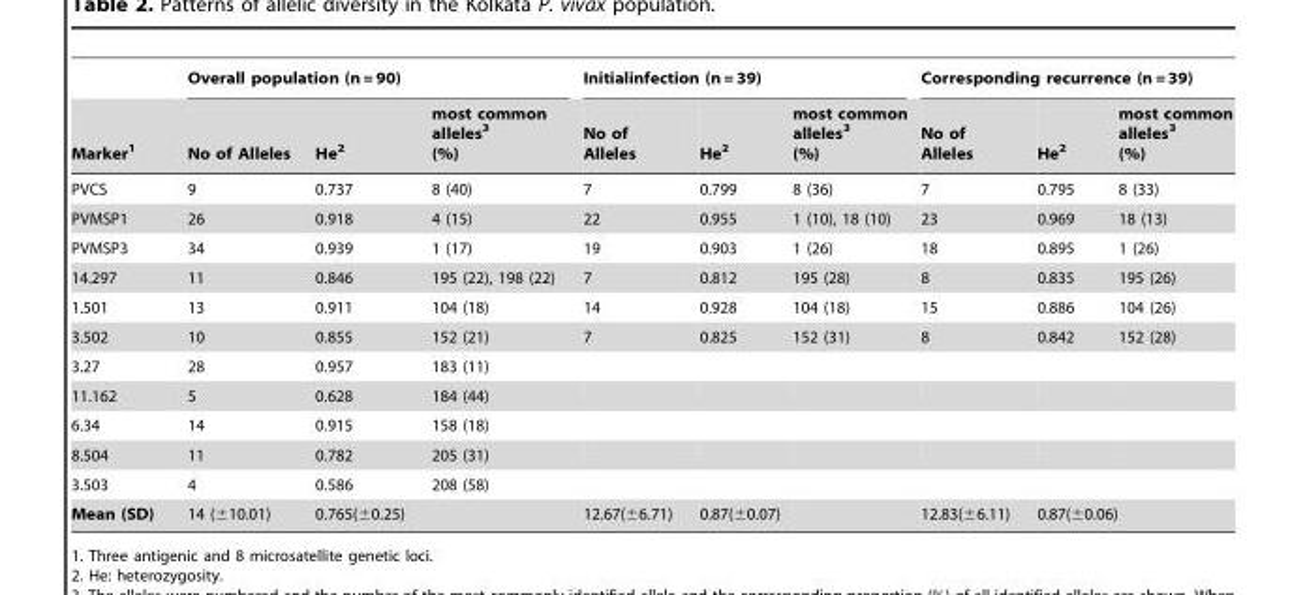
<table><thead><tr><td rowspan="2">Marker<sup>1</sup></td><td colspan="3">Overall population (n = 90)</td><td colspan="3">Initialinfection (n = 39)</td><td colspan="3">Corresponding recurrence (n = 39)</td></tr><tr><td>No of Alleles</td><td>He<sup>2</sup></td><td>most common alleles<sup>3</sup> (%)</td><td>No of Alleles</td><td>He<sup>2</sup></td><td>most common alleles<sup>3</sup> (%)</td><td>No of Alleles</td><td>He<sup>2</sup></td><td>most common alleles<sup>3</sup> (%)</td></tr></thead><tbody><tr><td>PVCS</td><td>9</td><td>0.737</td><td>8 (40)</td><td>7</td><td>0.799</td><td>8 (36)</td><td>7</td><td>0.795</td><td>8 (33)</td></tr><tr><td>PVMSP1</td><td>26</td><td>0.918</td><td>4 (15)</td><td>22</td><td>0.955</td><td>1 (10), 18 (10)</td><td>23</td><td>0.969</td><td>18 (13)</td></tr><tr><td>PVMSP3</td><td>34</td><td>0.939</td><td>1 (17)</td><td>19</td><td>0.903</td><td>1 (26)</td><td>18</td><td>0.895</td><td>1 (26)</td></tr><tr><td>14.297</td><td>11</td><td>0.846</td><td>195 (22), 198 (22)</td><td>7</td><td>0.812</td><td>195 (28)</td><td>8</td><td>0.835</td><td>195 (26)</td></tr><tr><td>1.501</td><td>13</td><td>0.911</td><td>104 (18)</td><td>14</td><td>0.928</td><td>104 (18)</td><td>15</td><td>0.886</td><td>104 (26)</td></tr><tr><td>3.502</td><td>10</td><td>0.855</td><td>152 (21)</td><td>7</td><td>0.825</td><td>152 (31)</td><td>8</td><td>0.842</td><td>152 (28)</td></tr><tr><td>3.27</td><td>28</td><td>0.957</td><td>183 (11)</td><td></td><td></td><td></td><td></td><td></td><td></td></tr><tr><td>11.162</td><td>5</td><td>0.628</td><td>184 (44)</td><td></td><td></td><td></td><td></td><td></td><td></td></tr><tr><td>6.34</td><td>14</td><td>0.915</td><td>158 (18)</td><td></td><td></td><td></td><td></td><td></td><td></td></tr><tr><td>8.504</td><td>11</td><td>0.782</td><td>205 (31)</td><td></td><td></td><td></td><td></td><td></td><td></td></tr><tr><td>3.503</td><td>4</td><td>0.586</td><td>208 (58)</td><td></td><td></td><td></td><td></td><td></td><td></td></tr><tr><td>Mean (SD)</td><td>14 (±10.01)</td><td>0.765(±0.25)</td><td></td><td>12.67(±6.71)</td><td>0.87(±0.07)</td><td></td><td>12.83(±6.11)</td><td>0.87(±0.06)</td><td></td></tr></tbody></table>